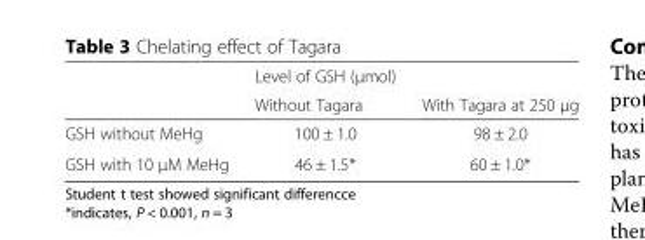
<table><thead><tr><td rowspan="2"></td><td rowspan="2">Level of GSH (μmol) Without Tagara</td><td rowspan="2">With Tagara at 250 μg</td></tr><tr></tr></thead><tbody><tr><td>GSH without MeHg</td><td>100 ± 1.0</td><td>98 ± 2.0</td></tr><tr><td>GSH with 10 μM MeHg</td><td>46 ± 1.5*</td><td>60 ± 1.0*</td></tr></tbody></table>